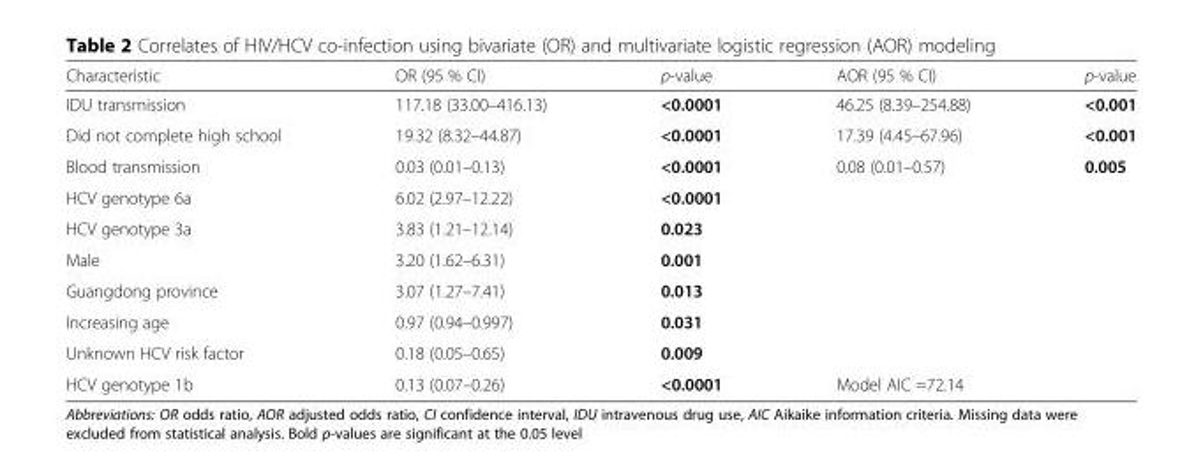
<table><thead><tr><td>Characteristic</td><td>OR (95 % CI)</td><td>p-value</td><td>AOR (95 % CI)</td><td>p-value</td></tr></thead><tbody><tr><td>IDU transmission</td><td>117.18 (33.00–416.13)</td><td>&lt;0.0001</td><td>46.25 (8.39–254.88)</td><td>&lt;0.001</td></tr><tr><td>Did not complete high school</td><td>19.32 (8.32–44.87)</td><td>&lt;0.0001</td><td>17.39 (4.45–67.96)</td><td>&lt;0.001</td></tr><tr><td>Blood transmission</td><td>0.03 (0.01–0.13)</td><td>&lt;0.0001</td><td>0.08 (0.01–0.57)</td><td>0.005</td></tr><tr><td>HCV genotype 6a</td><td>6.02 (2.97–12.22)</td><td>&lt;0.0001</td><td></td><td></td></tr><tr><td>HCV genotype 3a</td><td>3.83 (1.21–12.14)</td><td>0.023</td><td></td><td></td></tr><tr><td>Male</td><td>3.20 (1.62–6.31)</td><td>0.001</td><td></td><td></td></tr><tr><td>Guangdong province</td><td>3.07 (1.27–7.41)</td><td>0.013</td><td></td><td></td></tr><tr><td>Increasing age</td><td>0.97 (0.94–0.997)</td><td>0.031</td><td></td><td></td></tr><tr><td>Unknown HCV risk factor</td><td>0.18 (0.05–0.65)</td><td>0.009</td><td></td><td></td></tr><tr><td>HCV genotype 1b</td><td>0.13 (0.07–0.26)</td><td>&lt;0.0001</td><td colspan="2">Model AIC =72.14</td></tr></tbody></table>